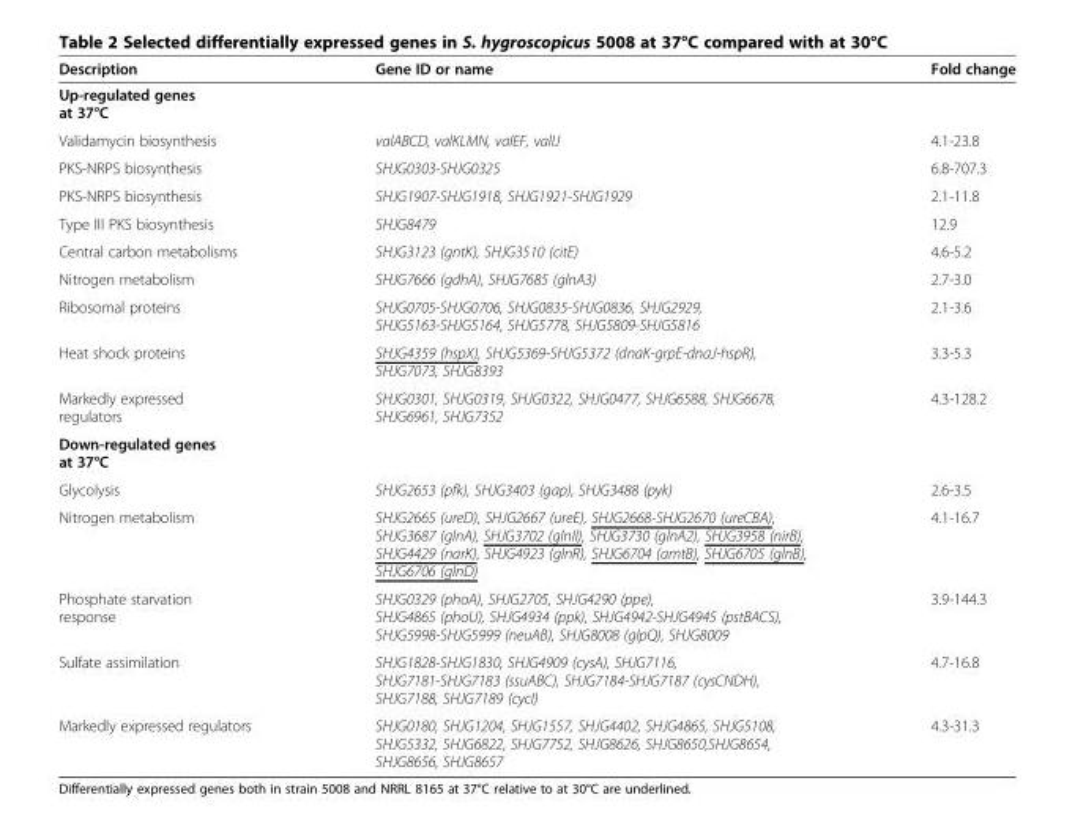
<table><thead><tr><td>Description</td><td>Gene ID or name</td><td>Fold change</td></tr></thead><tbody><tr><td colspan="3">Up-regulated genes at 37°C</td></tr><tr><td>Validamycin biosynthesis</td><td>valABCD, valKLMN, valEF, valIJ</td><td>4.1-23.8</td></tr><tr><td>PKS-NRPS biosynthesis</td><td>SHJG0303-SHJG0325</td><td>6.8-707.3</td></tr><tr><td>PKS-NRPS biosynthesis</td><td>SHJG1907-SHJG1918, SHJG1921-SHJG1929</td><td>2.1-11.8</td></tr><tr><td>Type III PKS biosynthesis</td><td>SHJG8479</td><td>12.9</td></tr><tr><td>Central carbon metabolisms</td><td>SHJG3123 (gntK), SHJG3510 (citE)</td><td>4.6-5.2</td></tr><tr><td>Nitrogen metabolism</td><td>SHJG7666 (gdhA), SHJG7685 (glnA3)</td><td>2.7-3.0</td></tr><tr><td>Ribosomal proteins</td><td>SHJG0705-SHJG0706, SHJG0835-SHJG0836, SHJG2929, SHJG5163-SHJG5164, SHJG5778, SHJG5809-SHJG5816</td><td>2.1-3.6</td></tr><tr><td>Heat shock proteins</td><td>SHJG4359 (hspX), SHJG5369-SHJG5372 (dnaK-grpE-dnaJ-hspR), SHJG7073, SHJG8393</td><td>3.3-5.3</td></tr><tr><td>Markedly expressed regulators</td><td>SHJG0301, SHJG0319, SHJG0322, SHJG0477, SHJG6588, SHJG6678, SHJG6961, SHJG7352</td><td>4.3-128.2</td></tr><tr><td colspan="3">Down-regulated genes at 37°C</td></tr><tr><td>Glycolysis</td><td>SHJG2653 (pfk), SHJG3403 (gap), SHJG3488 (pyk)</td><td>2.6-3.5</td></tr><tr><td>Nitrogen metabolism</td><td>SHJG2665 (ureD), SHJG2667 (ureE), SHJG2668-SHJG2670 (ureCBA), SHJG3687 (glnA), SHJG3702 (glnII), SHJG3730 (glnA2), SHJG3958 (nirB), SHJG4429 (narK), SHJG4923 (glnR), SHJG6704 (amtB), SHJG6705 (glnB), SHJG6706 (glnD)</td><td>4.1-16.7</td></tr><tr><td>Phosphate starvation response</td><td>SHJG0329 (phoA), SHJG2705, SHJG4290 (ppe), SHJG4865 (phoU), SHJG4934 (ppk), SHJG4942-SHJG4945 (pstBACS), SHJG5998-SHJG5999 (neuAB), SHJG8008 (glpQ), SHJG8009</td><td>3.9-144.3</td></tr><tr><td>Sulfate assimilation</td><td>SHJG1828-SHJG1830, SHJG4909 (cysA), SHJG7116, SHJG7181-SHJG7183 (ssuABC), SHJG7184-SHJG7187 (cysCNDH), SHJG7188, SHJG7189 (cycI)</td><td>4.7-16.8</td></tr><tr><td>Markedly expressed regulators</td><td>SHJG0180, SHJG1204, SHJG1557, SHJG4402, SHJG4865, SHJG5108, SHJG5332, SHJG6822, SHJG7752, SHJG8626, SHJG8650,SHJG8654, SHJG8656, SHJG8657</td><td>4.3-31.3</td></tr></tbody></table>